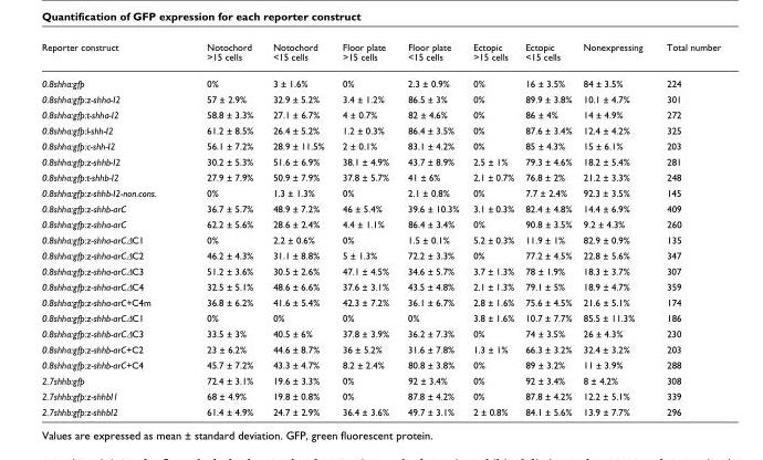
<table><thead><tr><td>Reporter construct</td><td>Notochord &gt;15 cells</td><td>Notochord &lt;15 cells</td><td>Floor plate &gt;15 cells</td><td>Floor plate &lt;15 cells</td><td>Ectopic &gt;15 cells</td><td>Ectopic &lt;15 cells</td><td>Nonexpressing</td><td>Total number</td></tr></thead><tbody><tr><td>0.8shha:gfp</td><td>0%</td><td>3 ± 1.6%</td><td>0%</td><td>2.3 ± 0.9%</td><td>0%</td><td>16 ± 3.5%</td><td>84 ± 3.5%</td><td>224</td></tr><tr><td>0.8shha:gfp:z-shha-I2</td><td>57 ± 2.9%</td><td>32.9 ± 5.2%</td><td>3.4 ± 1.2%</td><td>86.5 ± 3%</td><td>0%</td><td>89.9 ± 3.8%</td><td>10.1 ± 4.7%</td><td>301</td></tr><tr><td>0.8shha:gfp:t-shha-I2</td><td>58.8 ± 3.3%</td><td>27.1 ± 6.7%</td><td>4 ± 0.7%</td><td>82 ± 4.6%</td><td>0%</td><td>86 ± 4%</td><td>14 ± 4.9%</td><td>272</td></tr><tr><td>0.8shha:gfp:l-shh-I2</td><td>61.2 ± 8.5%</td><td>26.4 ± 5.2%</td><td>1.2 ± 0.3%</td><td>86.4 ± 3.5%</td><td>0%</td><td>87.6 ± 3.4%</td><td>12.4 ± 4.2%</td><td>325</td></tr><tr><td>0.8shha:gfp:c-shh-I2</td><td>56.1 ± 7.2%</td><td>28.9 ± 11.5%</td><td>2 ± 0.1%</td><td>83.1 ± 4.2%</td><td>0%</td><td>85 ± 4.3%</td><td>15 ± 6.1%</td><td>203</td></tr><tr><td>0.8shha:gfp:z-shhb-I2</td><td>30.2 ± 5.3%</td><td>51.6 ± 6.9%</td><td>38.1 ± 4.9%</td><td>43.7 ± 8.9%</td><td>2.5 ± 1%</td><td>79.3 ± 4.6%</td><td>18.2 ± 5.4%</td><td>281</td></tr><tr><td>0.8shha:gfp:t-shhb-I2</td><td>27.9 ± 7.9%</td><td>50.9 ± 7.9%</td><td>37.8 ± 5.7%</td><td>41 ± 6%</td><td>2.1 ± 0.7%</td><td>76.8 ± 2%</td><td>21.2 ± 3.3%</td><td>248</td></tr><tr><td>0.8shha:gfp:z-shhb-I2-non.cons.</td><td>0%</td><td>1.3 ± 1.3%</td><td>0%</td><td>2.1 ± 0.8%</td><td>0%</td><td>7.7 ± 2.4%</td><td>92.3 ± 3.5%</td><td>145</td></tr><tr><td>0.8shha:gfp:z-shhb-arC</td><td>36.7 ± 5.7%</td><td>48.9 ± 7.2%</td><td>46 ± 5.4%</td><td>39.6 ± 10.3%</td><td>3.1 ± 0.3%</td><td>82.4 ± 4.8%</td><td>14.4 ± 6.9%</td><td>409</td></tr><tr><td>0.8shha:gfp:z-shha-arC</td><td>62.2 ± 5.6%</td><td>28.6 ± 2.4%</td><td>4.4 ± 1.1%</td><td>86.4 ± 3.4%</td><td>0%</td><td>90.8 ± 3.5%</td><td>9.2 ± 4.3%</td><td>260</td></tr><tr><td>0.8shha:gfp:z-shha-arCΔC1</td><td>0%</td><td>2.2 ± 0.6%</td><td>0%</td><td>1.5 ± 0.1%</td><td>5.2 ± 0.3%</td><td>11.9 ± 1%</td><td>82.9 ± 0.9%</td><td>135</td></tr><tr><td>0.8shha:gfp:z-shha-arCΔC2</td><td>46.2 ± 4.3%</td><td>31.1 ± 8.8%</td><td>5 ± 1.3%</td><td>72.2 ± 3.3%</td><td>0%</td><td>77.2 ± 4.5%</td><td>22.8 ± 5.6%</td><td>347</td></tr><tr><td>0.8shha:gfp:z-shha-arCΔC3</td><td>51.2 ± 3.6%</td><td>30.5 ± 2.6%</td><td>47.1 ± 4.5%</td><td>34.6 ± 5.7%</td><td>3.7 ± 1.3%</td><td>78 ± 1.9%</td><td>18.3 ± 3.7%</td><td>307</td></tr><tr><td>0.8shha:gfp:z-shha-arCΔC4</td><td>32.5 ± 5.1%</td><td>48.6 ± 6.6%</td><td>37.6 ± 3.1%</td><td>43.5 ± 4.8%</td><td>2.1 ± 1.3%</td><td>79.1 ± 5%</td><td>18.9 ± 4.7%</td><td>359</td></tr><tr><td>0.8shha:gfp:z-shha-arC+C4m</td><td>36.8 ± 6.2%</td><td>41.6 ± 5.4%</td><td>42.3 ± 7.2%</td><td>36.1 ± 6.7%</td><td>2.8 ± 1.6%</td><td>75.6 ± 4.5%</td><td>21.6 ± 5.1%</td><td>174</td></tr><tr><td>0.8shha:gfp:z-shhb-arCΔC1</td><td>0%</td><td>0%</td><td>0%</td><td>0%</td><td>3.8 ± 1.6%</td><td>10.7 ± 7.7%</td><td>85.5 ± 11.3%</td><td>186</td></tr><tr><td>0.8shha:gfp:z-shhb-arCΔC3</td><td>33.5 ± 3%</td><td>40.5 ± 6%</td><td>37.8 ± 3.9%</td><td>36.2 ± 7.3%</td><td>0%</td><td>74 ± 3.5%</td><td>26 ± 4.3%</td><td>230</td></tr><tr><td>0.8shha:gfp:z-shhb-arC+C2</td><td>23 ± 6.2%</td><td>44.6 ± 8.7%</td><td>36 ± 5.2%</td><td>31.6 ± 7.8%</td><td>1.3 ± 1%</td><td>66.3 ± 3.2%</td><td>32.4 ± 3.2%</td><td>203</td></tr><tr><td>0.8shha:gfp:z-shhb-arC+C4</td><td>45.7 ± 7.2%</td><td>43.3 ± 4.7%</td><td>8.2 ± 2.4%</td><td>80.8 ± 3.8%</td><td>0%</td><td>89 ± 3.2%</td><td>11 ± 3.9%</td><td>288</td></tr><tr><td>2.7shhb:gfp</td><td>72.4 ± 3.1%</td><td>19.6 ± 3.3%</td><td>0%</td><td>92 ± 3.4%</td><td>0%</td><td>92 ± 3.4%</td><td>8 ± 4.2%</td><td>308</td></tr><tr><td>2.7shhb:gfp:z-shhbI1</td><td>68 ± 4.9%</td><td>19.8 ± 0.8%</td><td>0%</td><td>87.8 ± 4.2%</td><td>0%</td><td>87.8 ± 4.2%</td><td>12.2 ± 5.1%</td><td>339</td></tr><tr><td>2.7shhb:gfp:z-shhbI2</td><td>61.4 ± 4.9%</td><td>24.7 ± 2.9%</td><td>36.4 ± 3.6%</td><td>49.7 ± 3.1%</td><td>2 ± 0.8%</td><td>84.1 ± 5.6%</td><td>13.9 ± 7.7%</td><td>296</td></tr></tbody></table>